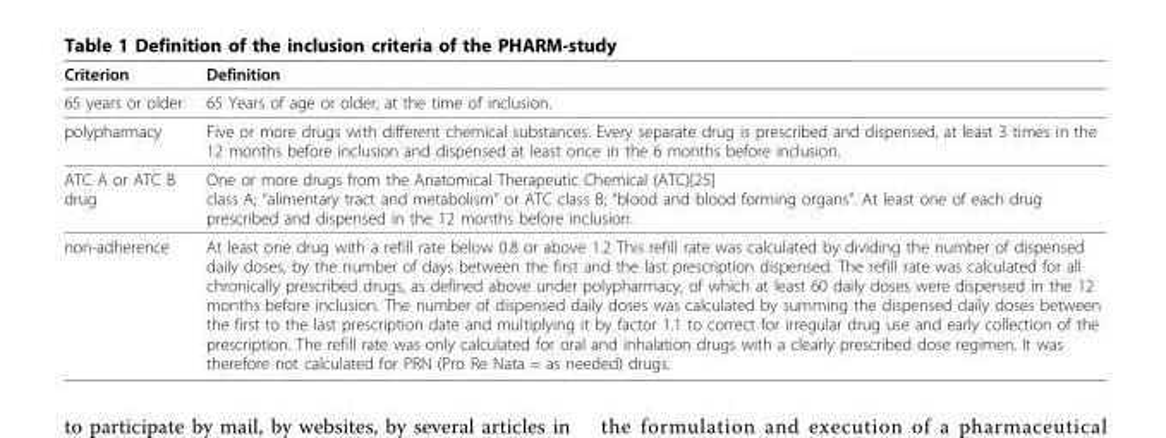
<table><thead><tr><td>Criterion</td><td>Definition</td></tr></thead><tbody><tr><td>65 years or older</td><td>65 Years of age or older, at the time of inclusion.</td></tr><tr><td>polypharmacy</td><td>Five or more drugs with different chemical substances. Every separate drug is prescribed and dispensed, at least 3 times in the 12 months before inclusion and dispensed at least once in the 6 months before inclusion.</td></tr><tr><td>ATC A or ATC B drug</td><td>One or more drugs from the Anatomical Therapeutic Chemical (ATC)[25] class A; “alimentary tract and metabolism” or ATC class B; “blood and blood forming organs”. At least one of each drug prescribed and dispensed in the 12 months before inclusion.</td></tr><tr><td>non-adherence</td><td>At least one drug with a refill rate below 0.8 or above 1.2 This refill rate was calculated by dividing the number of dispensed daily doses, by the number of days between the first and the last prescription dispensed. The refill rate was calculated for all chronically prescribed drugs, as defined above under polypharmacy, of which at least 60 daily doses were dispensed in the 12 months before inclusion. The number of dispensed daily doses was calculated by summing the dispensed daily doses between the first to the last prescription date and multiplying it by factor 1.1 to correct for irregular drug use and early collection of the prescription. The refill rate was only calculated for oral and inhalation drugs with a clearly prescribed dose regimen. It was therefore not calculated for PRN (Pro Re Nata = as needed) drugs.</td></tr></tbody></table>